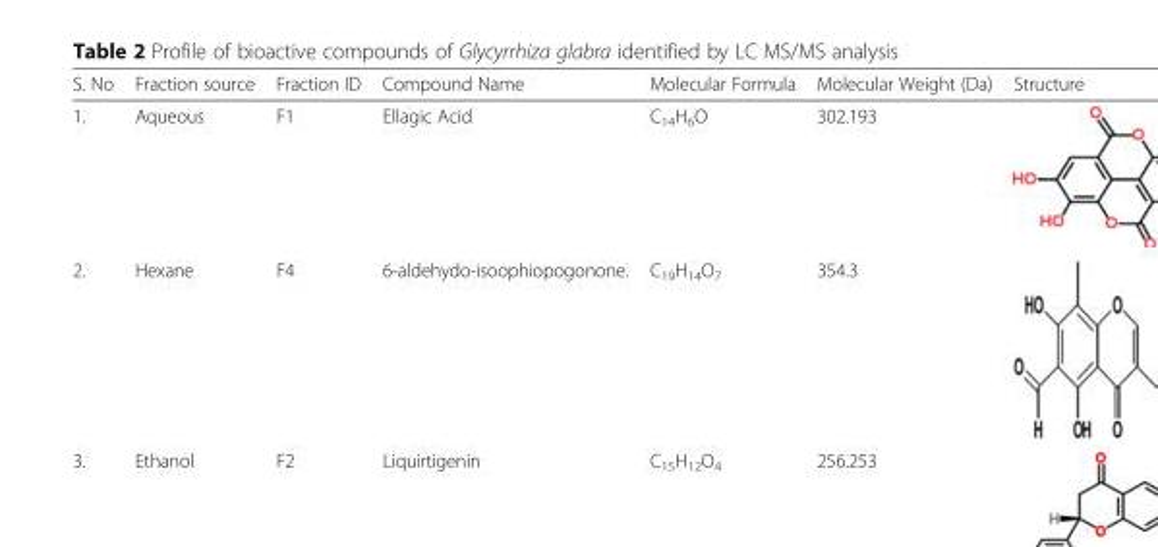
<table><thead><tr><td>S. No</td><td>Fraction source</td><td>Fraction ID</td><td>Compound Name</td><td>Molecular Formula</td><td>Molecular Weight (Da)</td><td>Structure</td></tr></thead><tbody><tr><td>1.</td><td>Aqueous</td><td>F1</td><td>Ellagic Acid</td><td>C<sub>14</sub>H<sub>6</sub>O</td><td>302.193</td><td></td></tr><tr><td>2.</td><td>Hexane</td><td>F4</td><td>6-aldehydo-isoophiopogonone.</td><td>C<sub>19</sub>H<sub>14</sub>O<sub>7</sub></td><td>354.3</td><td></td></tr><tr><td>3.</td><td>Ethanol</td><td>F2</td><td>Liquirtigenin</td><td>C<sub>15</sub>H<sub>12</sub>O<sub>4</sub></td><td>256.253</td><td></td></tr></tbody></table>